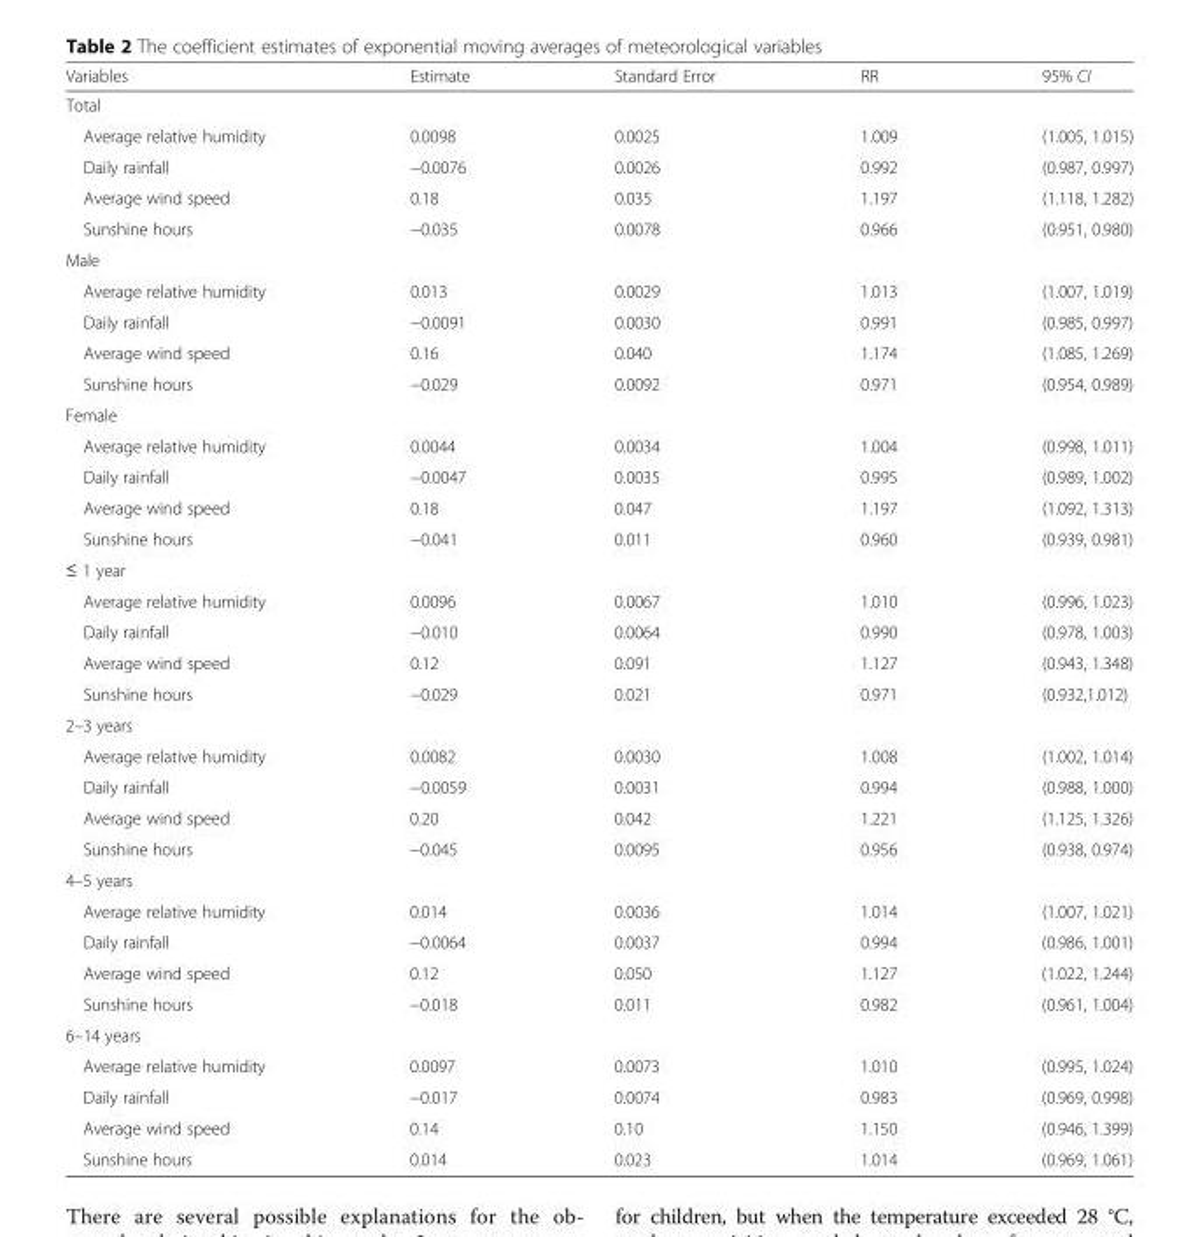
<table><thead><tr><td>Variables</td><td>Estimate</td><td>Standard Error</td><td>RR</td><td>95% CI</td></tr></thead><tbody><tr><td colspan="5">Total</td></tr><tr><td>Average relative humidity</td><td>0.0098</td><td>0.0025</td><td>1.009</td><td>(1.005, 1.015)</td></tr><tr><td>Daily rainfall</td><td>−0.0076</td><td>0.0026</td><td>0.992</td><td>(0.987, 0.997)</td></tr><tr><td>Average wind speed</td><td>0.18</td><td>0.035</td><td>1.197</td><td>(1.118, 1.282)</td></tr><tr><td>Sunshine hours</td><td>−0.035</td><td>0.0078</td><td>0.966</td><td>(0.951, 0.980)</td></tr><tr><td colspan="5">Male</td></tr><tr><td>Average relative humidity</td><td>0.013</td><td>0.0029</td><td>1.013</td><td>(1.007, 1.019)</td></tr><tr><td>Daily rainfall</td><td>−0.0091</td><td>0.0030</td><td>0.991</td><td>(0.985, 0.997)</td></tr><tr><td>Average wind speed</td><td>0.16</td><td>0.040</td><td>1.174</td><td>(1.085, 1.269)</td></tr><tr><td>Sunshine hours</td><td>−0.029</td><td>0.0092</td><td>0.971</td><td>(0.954, 0.989)</td></tr><tr><td colspan="5">Female</td></tr><tr><td>Average relative humidity</td><td>0.0044</td><td>0.0034</td><td>1.004</td><td>(0.998, 1.011)</td></tr><tr><td>Daily rainfall</td><td>−0.0047</td><td>0.0035</td><td>0.995</td><td>(0.989, 1.002)</td></tr><tr><td>Average wind speed</td><td>0.18</td><td>0.047</td><td>1.197</td><td>(1.092, 1.313)</td></tr><tr><td>Sunshine hours</td><td>−0.041</td><td>0.011</td><td>0.960</td><td>(0.939, 0.981)</td></tr><tr><td colspan="5">≤ 1 year</td></tr><tr><td>Average relative humidity</td><td>0.0096</td><td>0.0067</td><td>1.010</td><td>(0.996, 1.023)</td></tr><tr><td>Daily rainfall</td><td>−0.010</td><td>0.0064</td><td>0.990</td><td>(0.978, 1.003)</td></tr><tr><td>Average wind speed</td><td>0.12</td><td>0.091</td><td>1.127</td><td>(0.943, 1.348)</td></tr><tr><td>Sunshine hours</td><td>−0.029</td><td>0.021</td><td>0.971</td><td>(0.932,1.012)</td></tr><tr><td colspan="5">2–3 years</td></tr><tr><td>Average relative humidity</td><td>0.0082</td><td>0.0030</td><td>1.008</td><td>(1.002, 1.014)</td></tr><tr><td>Daily rainfall</td><td>−0.0059</td><td>0.0031</td><td>0.994</td><td>(0.988, 1.000)</td></tr><tr><td>Average wind speed</td><td>0.20</td><td>0.042</td><td>1.221</td><td>(1.125, 1.326)</td></tr><tr><td>Sunshine hours</td><td>−0.045</td><td>0.0095</td><td>0.956</td><td>(0.938, 0.974)</td></tr><tr><td colspan="5">4–5 years</td></tr><tr><td>Average relative humidity</td><td>0.014</td><td>0.0036</td><td>1.014</td><td>(1.007, 1.021)</td></tr><tr><td>Daily rainfall</td><td>−0.0064</td><td>0.0037</td><td>0.994</td><td>(0.986, 1.001)</td></tr><tr><td>Average wind speed</td><td>0.12</td><td>0.050</td><td>1.127</td><td>(1.022, 1.244)</td></tr><tr><td>Sunshine hours</td><td>−0.018</td><td>0.011</td><td>0.982</td><td>(0.961, 1.004)</td></tr><tr><td colspan="5">6–14 years</td></tr><tr><td>Average relative humidity</td><td>0.0097</td><td>0.0073</td><td>1.010</td><td>(0.995, 1.024)</td></tr><tr><td>Daily rainfall</td><td>−0.017</td><td>0.0074</td><td>0.983</td><td>(0.969, 0.998)</td></tr><tr><td>Average wind speed</td><td>0.14</td><td>0.10</td><td>1.150</td><td>(0.946, 1.399)</td></tr><tr><td>Sunshine hours</td><td>0.014</td><td>0.023</td><td>1.014</td><td>(0.969, 1.061)</td></tr></tbody></table>